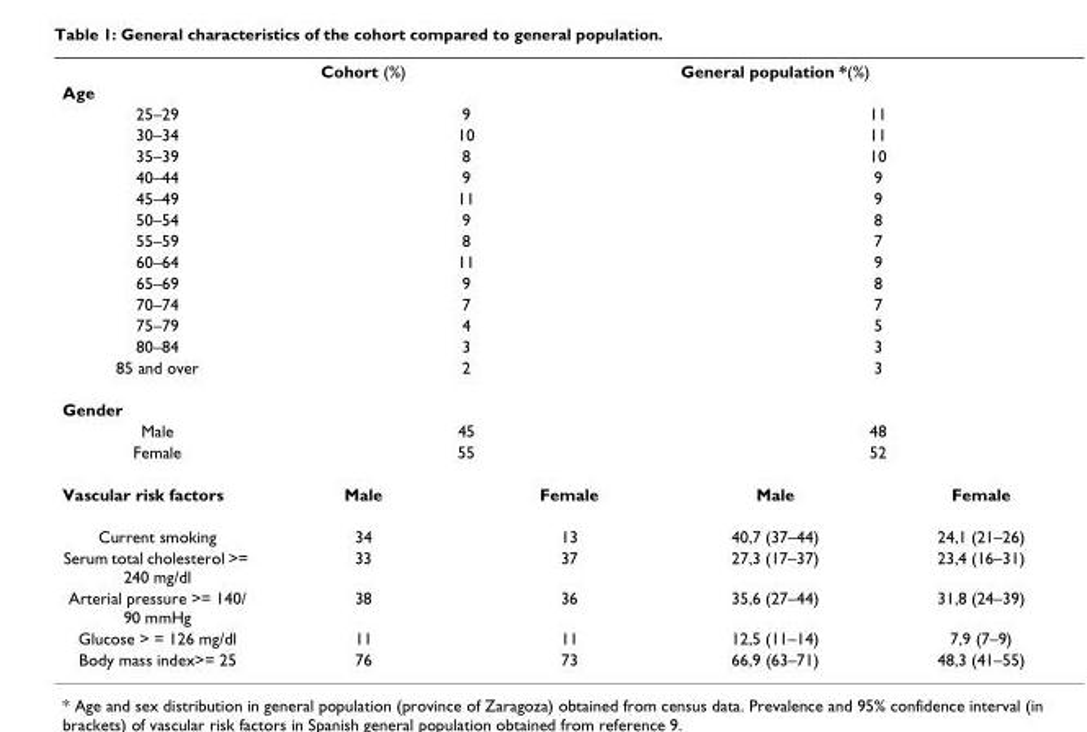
<table><thead><tr><td></td><td>Cohort (%)</td><td></td><td>General population *(%)</td><td></td></tr></thead><tbody><tr><td colspan="5">Age</td></tr><tr><td>25–29</td><td colspan="2">9</td><td colspan="2">11</td></tr><tr><td>30–34</td><td colspan="2">10</td><td colspan="2">11</td></tr><tr><td>35–39</td><td colspan="2">8</td><td colspan="2">10</td></tr><tr><td>40–44</td><td colspan="2">9</td><td colspan="2">9</td></tr><tr><td>45–49</td><td colspan="2">11</td><td colspan="2">9</td></tr><tr><td>50–54</td><td colspan="2">9</td><td colspan="2">8</td></tr><tr><td>55–59</td><td colspan="2">8</td><td colspan="2">7</td></tr><tr><td>60–64</td><td colspan="2">11</td><td colspan="2">9</td></tr><tr><td>65–69</td><td colspan="2">9</td><td colspan="2">8</td></tr><tr><td>70–74</td><td colspan="2">7</td><td colspan="2">7</td></tr><tr><td>75–79</td><td colspan="2">4</td><td colspan="2">5</td></tr><tr><td>80–84</td><td colspan="2">3</td><td colspan="2">3</td></tr><tr><td>85 and over</td><td colspan="2">2</td><td colspan="2">3</td></tr><tr><td colspan="5">Gender</td></tr><tr><td>Male</td><td colspan="2">45</td><td colspan="2">48</td></tr><tr><td>Female</td><td colspan="2">55</td><td colspan="2">52</td></tr><tr><td>Vascular risk factors</td><td>Male</td><td>Female</td><td>Male</td><td>Female</td></tr><tr><td>Current smoking</td><td>34</td><td>13</td><td>40,7 (37–44)</td><td>24,1 (21–26)</td></tr><tr><td>Serum total cholesterol &gt;= 240 mg/dl</td><td>33</td><td>37</td><td>27,3 (17–37)</td><td>23,4 (16–31)</td></tr><tr><td>Arterial pressure &gt;= 140/ 90 mmHg</td><td>38</td><td>36</td><td>35,6 (27–44)</td><td>31,8 (24–39)</td></tr><tr><td>Glucose &gt; = 126 mg/dl</td><td>11</td><td>11</td><td>12,5 (11–14)</td><td>7,9 (7–9)</td></tr><tr><td>Body mass index&gt;= 25</td><td>76</td><td>73</td><td>66,9 (63–71)</td><td>48,3 (41–55)</td></tr></tbody></table>